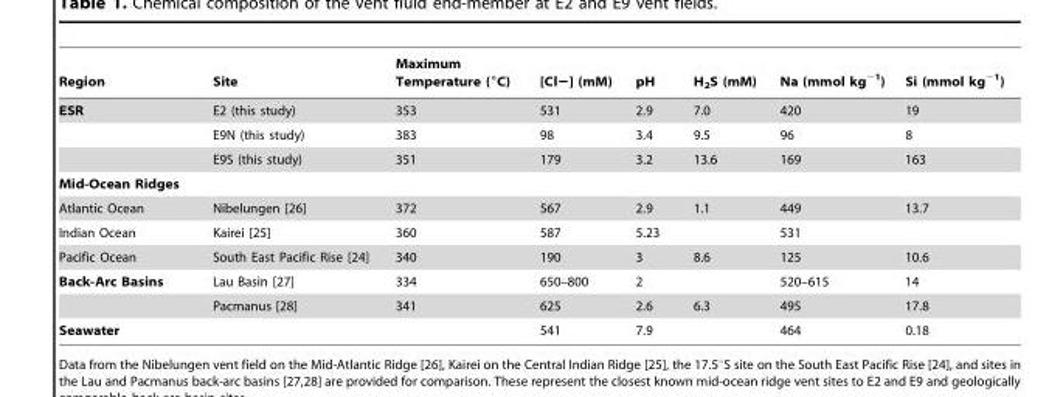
<table><thead><tr><td>Region</td><td>Site</td><td>Maximum Temperature (°C)</td><td>[Cl−] (mM)</td><td>pH</td><td>H<sub>2</sub>S (mM)</td><td>Na (mmol kg<sup>−1</sup>)</td><td>Si (mmol kg<sup>−1</sup>)</td></tr></thead><tbody><tr><td rowspan="3">ESR</td><td>E2 (this study)</td><td>353</td><td>531</td><td>2.9</td><td>7.0</td><td>420</td><td>19</td></tr><tr><td>E9N (this study)</td><td>383</td><td>98</td><td>3.4</td><td>9.5</td><td>96</td><td>8</td></tr><tr><td>E9S (this study)</td><td>351</td><td>179</td><td>3.2</td><td>13.6</td><td>169</td><td>163</td></tr><tr><td colspan="8">Mid-Ocean Ridges</td></tr><tr><td>Atlantic Ocean</td><td>Nibelungen [26]</td><td>372</td><td>567</td><td>2.9</td><td>1.1</td><td>449</td><td>13.7</td></tr><tr><td>Indian Ocean</td><td>Kairei [25]</td><td>360</td><td>587</td><td>5.23</td><td></td><td>531</td><td></td></tr><tr><td>Pacific Ocean</td><td>South East Pacific Rise [24]</td><td>340</td><td>190</td><td>3</td><td>8.6</td><td>125</td><td>10.6</td></tr><tr><td rowspan="2">Back-Arc Basins</td><td>Lau Basin [27]</td><td>334</td><td>650–800</td><td>2</td><td></td><td>520–615</td><td>14</td></tr><tr><td>Pacmanus [28]</td><td>341</td><td>625</td><td>2.6</td><td>6.3</td><td>495</td><td>17.8</td></tr><tr><td>Seawater</td><td></td><td></td><td>541</td><td>7.9</td><td></td><td>464</td><td>0.18</td></tr></tbody></table>